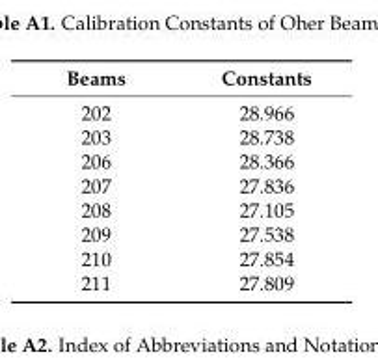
<table><thead><tr><td>Beams</td><td>Constants</td></tr></thead><tbody><tr><td>202</td><td>28.966</td></tr><tr><td>203</td><td>28.738</td></tr><tr><td>206</td><td>28.366</td></tr><tr><td>207</td><td>27.836</td></tr><tr><td>208</td><td>27.105</td></tr><tr><td>209</td><td>27.538</td></tr><tr><td>210</td><td>27.854</td></tr><tr><td>211</td><td>27.809</td></tr></tbody></table>